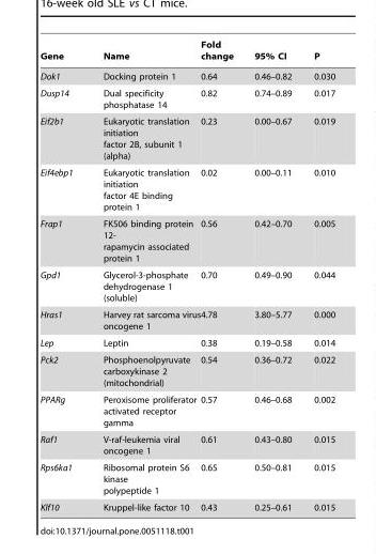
<table><thead><tr><td>Gene</td><td>Name</td><td>Fold change</td><td>95% CI</td><td>P</td></tr></thead><tbody><tr><td>Dok1</td><td>Docking protein 1</td><td>0.64</td><td>0.46–0.82</td><td>0.030</td></tr><tr><td>Dusp14</td><td>Dual specificity phosphatase 14</td><td>0.82</td><td>0.74–0.89</td><td>0.017</td></tr><tr><td>Eif2b1</td><td>Eukaryotic translation initiation factor 2B, subunit 1 (alpha)</td><td>0.23</td><td>0.00–0.67</td><td>0.019</td></tr><tr><td>Eif4ebp1</td><td>Eukaryotic translation initiation factor 4E binding protein 1</td><td>0.02</td><td>0.00–0.11</td><td>0.010</td></tr><tr><td>Frap1</td><td>FK506 binding protein 12- rapamycin associated protein 1</td><td>0.56</td><td>0.42–0.70</td><td>0.005</td></tr><tr><td>Gpd1</td><td>Glycerol-3-phosphate dehydrogenase 1 (soluble)</td><td>0.70</td><td>0.49–0.90</td><td>0.044</td></tr><tr><td>Hras1</td><td>Harvey rat sarcoma virus oncogene 1</td><td>4.78</td><td>3.80–5.77</td><td>0.000</td></tr><tr><td>Lep</td><td>Leptin</td><td>0.38</td><td>0.19–0.58</td><td>0.014</td></tr><tr><td>Pck2</td><td>Phosphoenolpyruvate carboxykinase 2 (mitochondrial)</td><td>0.54</td><td>0.36–0.72</td><td>0.022</td></tr><tr><td>PPARg</td><td>Peroxisome proliferator activated receptor gamma</td><td>0.57</td><td>0.46–0.68</td><td>0.002</td></tr><tr><td>Raf1</td><td>V-raf-leukemia viral oncogene 1</td><td>0.61</td><td>0.43–0.80</td><td>0.015</td></tr><tr><td>Rps6ka1</td><td>Ribosomal protein S6 kinase polypeptide 1</td><td>0.65</td><td>0.50–0.81</td><td>0.015</td></tr><tr><td>Klf10</td><td>Kruppel-like factor 10</td><td>0.43</td><td>0.25–0.61</td><td>0.015</td></tr></tbody></table>